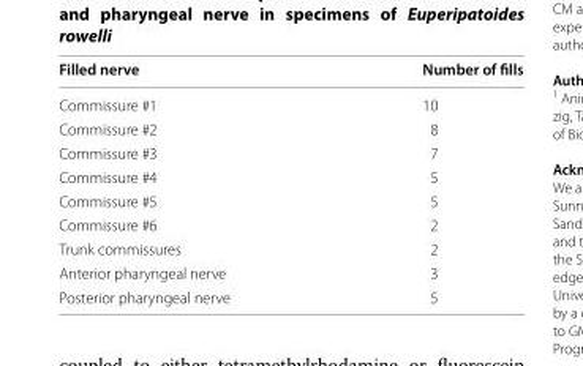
<table><thead><tr><td>Filled nerve</td><td>Number of fills</td></tr></thead><tbody><tr><td>Commissure #1</td><td>10</td></tr><tr><td>Commissure #2</td><td>8</td></tr><tr><td>Commissure #3</td><td>7</td></tr><tr><td>Commissure #4</td><td>5</td></tr><tr><td>Commissure #5</td><td>5</td></tr><tr><td>Commissure #6</td><td>2</td></tr><tr><td>Trunk commissures</td><td>2</td></tr><tr><td>Anterior pharyngeal nerve</td><td>3</td></tr><tr><td>Posterior pharyngeal nerve</td><td>5</td></tr></tbody></table>